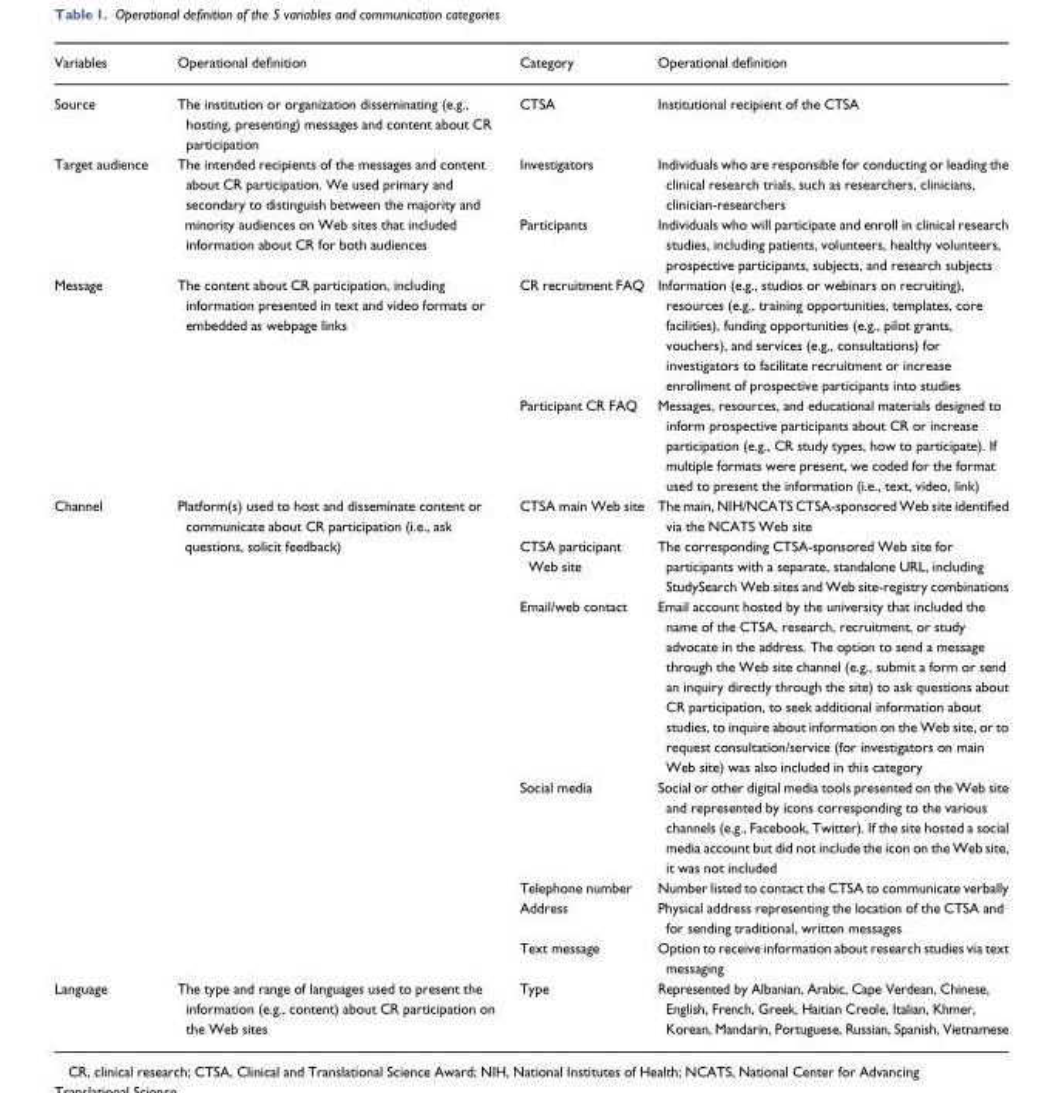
<table><thead><tr><td>Variables</td><td>Operational definition</td><td>Category</td><td>Operational definition</td></tr></thead><tbody><tr><td>Source</td><td>The institution or organization disseminating (e.g., hosting, presenting) messages and content about CR participation</td><td>CTSA</td><td>Institutional recipient of the CTSA</td></tr><tr><td rowspan="2">Target audience</td><td>The intended recipients of the messages and content about CR participation. We used primary and secondary to distinguish between the majority and</td><td>Investigators</td><td>Individuals who are responsible for conducting or leading the clinical research trials, such as researchers, clinicians, clinician-researchers</td></tr><tr><td>minority audiences on Web sites that included information about CR for both audiences</td><td>Participants</td><td>Individuals who will participate and enroll in clinical research studies, including patients, volunteers, healthy volunteers, prospective participants, subjects, and research subjects</td></tr><tr><td rowspan="2">Message</td><td>The content about CR participation, including information presented in text and video formats or embedded as webpage links</td><td>CR recruitment FAQ</td><td>Information (e.g., studios or webinars on recruiting), resources (e.g., training opportunities, templates, core facilities), funding opportunities (e.g., pilot grants, vouchers), and services (e.g., consultations) for investigators to facilitate recruitment or increase enrollment of prospective participants into studies</td></tr><tr><td></td><td>Participant CR FAQ</td><td>Messages, resources, and educational materials designed to inform prospective participants about CR or increase participation (e.g., CR study types, how to participate). If multiple formats were present, we coded for the format used to present the information (i.e., text, video, link)</td></tr><tr><td rowspan="7">Channel</td><td>Platform(s) used to host and disseminate content or communicate about CR participation (i.e., ask</td><td>CTSA main Web site</td><td>The main, NIH/NCATS CTSA-sponsored Web site identified via the NCATS Web site</td></tr><tr><td>questions, solicit feedback)</td><td>CTSA participant Web site</td><td>The corresponding CTSA-sponsored Web site for participants with a separate, standalone URL, including StudySearch Web sites and Web site-registry combinations</td></tr><tr><td></td><td>Email/web contact</td><td>Email account hosted by the university that included the name of the CTSA, research, recruitment, or study advocate in the address. The option to send a message through the Web site channel (e.g., submit a form or send an inquiry directly through the site) to ask questions about CR participation, to seek additional information about studies, to inquire about information on the Web site, or to request consultation/service (for investigators on main Web site) was also included in this category</td></tr><tr><td></td><td>Social media</td><td>Social or other digital media tools presented on the Web site and represented by icons corresponding to the various channels (e.g., Facebook, Twitter). If the site hosted a social media account but did not include the icon on the Web site, it was not included</td></tr><tr><td></td><td>Telephone number</td><td>Number listed to contact the CTSA to communicate verbally</td></tr><tr><td></td><td>Address</td><td>Physical address representing the location of the CTSA and for sending traditional, written messages</td></tr><tr><td></td><td>Text message</td><td>Option to receive information about research studies via text messaging</td></tr><tr><td>Language</td><td>The type and range of languages used to present the information (e.g., content) about CR participation on the Web sites</td><td>Type</td><td>Represented by Albanian, Arabic, Cape Verdean, Chinese, English, French, Greek, Haitian Creole, Italian, Khmer, Korean, Mandarin, Portuguese, Russian, Spanish, Vietnamese</td></tr></tbody></table>